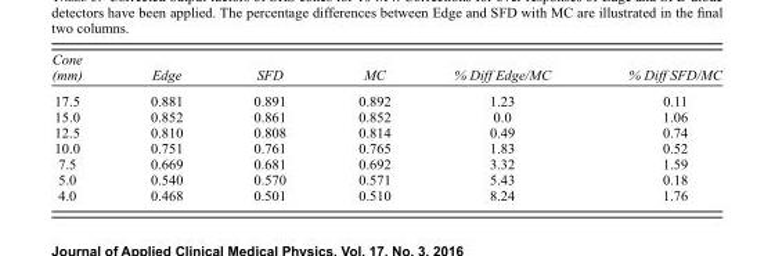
<table><thead><tr><td>Cone (mm)</td><td>Edge</td><td>SFD</td><td>MC</td><td>% Diff Edge/MC</td><td>% Diff SFD/MC</td></tr></thead><tbody><tr><td>17.5</td><td>0.881</td><td>0.891</td><td>0.892</td><td>1.23</td><td>0.11</td></tr><tr><td>15.0</td><td>0.852</td><td>0.861</td><td>0.852</td><td>0.0</td><td>1.06</td></tr><tr><td>12.5</td><td>0.810</td><td>0.808</td><td>0.814</td><td>0.49</td><td>0.74</td></tr><tr><td>10.0</td><td>0.751</td><td>0.761</td><td>0.765</td><td>1.83</td><td>0.52</td></tr><tr><td>7.5</td><td>0.669</td><td>0.681</td><td>0.692</td><td>3.32</td><td>1.59</td></tr><tr><td>5.0</td><td>0.540</td><td>0.570</td><td>0.571</td><td>5.43</td><td>0.18</td></tr><tr><td>4.0</td><td>0.468</td><td>0.501</td><td>0.510</td><td>8.24</td><td>1.76</td></tr></tbody></table>